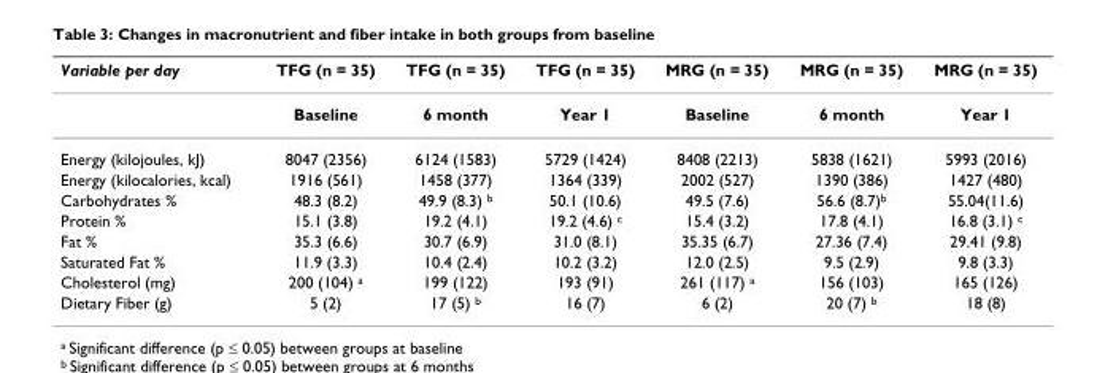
<table><thead><tr><td>Variable per day</td><td>TFG (n = 35)</td><td>TFG (n = 35)</td><td>TFG (n = 35)</td><td>MRG (n = 35)</td><td>MRG (n = 35)</td><td>MRG (n = 35)</td></tr></thead><tbody><tr><td></td><td>Baseline</td><td>6 month</td><td>Year 1</td><td>Baseline</td><td>6 month</td><td>Year 1</td></tr><tr><td>Energy (kilojoules, kJ)</td><td>8047 (2356)</td><td>6124 (1583)</td><td>5729 (1424)</td><td>8408 (2213)</td><td>5838 (1621)</td><td>5993 (2016)</td></tr><tr><td>Energy (kilocalories, kcal)</td><td>1916 (561)</td><td>1458 (377)</td><td>1364 (339)</td><td>2002 (527)</td><td>1390 (386)</td><td>1427 (480)</td></tr><tr><td>Carbohydrates %</td><td>48.3 (8.2)</td><td>49.9 (8.3) <sup>b</sup></td><td>50.1 (10.6)</td><td>49.5 (7.6)</td><td>56.6 (8.7)<sup>b</sup></td><td>55.04(11.6)</td></tr><tr><td>Protein %</td><td>15.1 (3.8)</td><td>19.2 (4.1)</td><td>19.2 (4.6) <sup>c</sup></td><td>15.4 (3.2)</td><td>17.8 (4.1)</td><td>16.8 (3.1) <sup>c</sup></td></tr><tr><td>Fat %</td><td>35.3 (6.6)</td><td>30.7 (6.9)</td><td>31.0 (8.1)</td><td>35.35 (6.7)</td><td>27.36 (7.4)</td><td>29.41 (9.8)</td></tr><tr><td>Saturated Fat %</td><td>11.9 (3.3)</td><td>10.4 (2.4)</td><td>10.2 (3.2)</td><td>12.0 (2.5)</td><td>9.5 (2.9)</td><td>9.8 (3.3)</td></tr><tr><td>Cholesterol (mg)</td><td>200 (104) <sup>a</sup></td><td>199 (122)</td><td>193 (91)</td><td>261 (117) <sup>a</sup></td><td>156 (103)</td><td>165 (126)</td></tr><tr><td>Dietary Fiber (g)</td><td>5 (2)</td><td>17 (5) <sup>b</sup></td><td>16 (7)</td><td>6 (2)</td><td>20 (7) <sup>b</sup></td><td>18 (8)</td></tr></tbody></table>